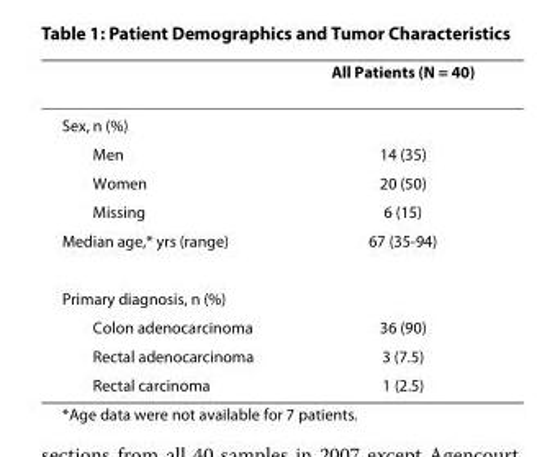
<table><thead><tr><td></td><td>All Patients (N = 40)</td></tr></thead><tbody><tr><td colspan="2">Sex, n (%)</td></tr><tr><td>Men</td><td>14 (35)</td></tr><tr><td>Women</td><td>20 (50)</td></tr><tr><td>Missing</td><td>6 (15)</td></tr><tr><td>Median age,* yrs (range)</td><td>67 (35-94)</td></tr><tr><td colspan="2">Primary diagnosis, n (%)</td></tr><tr><td>Colon adenocarcinoma</td><td>36 (90)</td></tr><tr><td>Rectal adenocarcinoma</td><td>3 (7.5)</td></tr><tr><td>Rectal carcinoma</td><td>1 (2.5)</td></tr></tbody></table>